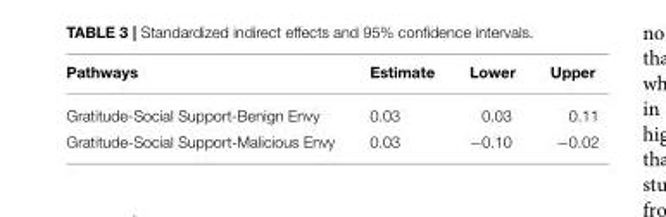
<table><thead><tr><td>Pathways</td><td>Estimate</td><td>Lower</td><td>Upper</td></tr></thead><tbody><tr><td>Gratitude-Social Support-Benign Envy</td><td>0.03</td><td>0.03</td><td>0.11</td></tr><tr><td>Gratitude-Social Support-Malicious Envy</td><td>0.03</td><td>−0.10</td><td>−0.02</td></tr></tbody></table>